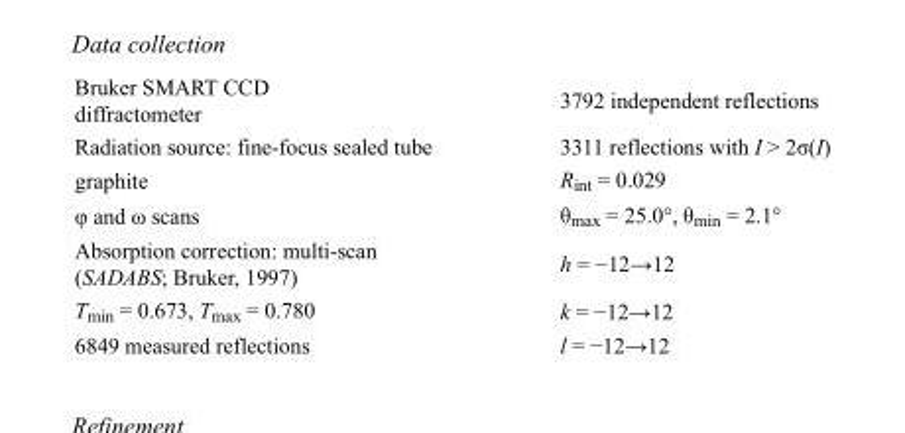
<table><tbody><tr><td>Bruker SMART CCD diffractometer</td><td>3792 independent reflections</td></tr><tr><td>Radiation source: fine-focus sealed tube</td><td>3311 reflections with I &gt; 2σ(I)</td></tr><tr><td>graphite</td><td>R<sub>int</sub> = 0.029</td></tr><tr><td>φ and ω scans</td><td>θ<sub>max</sub> = 25.0°, θ<sub>min</sub> = 2.1°</td></tr><tr><td>Absorption correction: multi-scan (SADABS; Bruker, 1997)</td><td>h = −12→12</td></tr><tr><td>T<sub>min</sub> = 0.673, T<sub>max</sub> = 0.780</td><td>k = −12→12</td></tr><tr><td>6849 measured reflections</td><td>l = −12→12</td></tr></tbody></table>